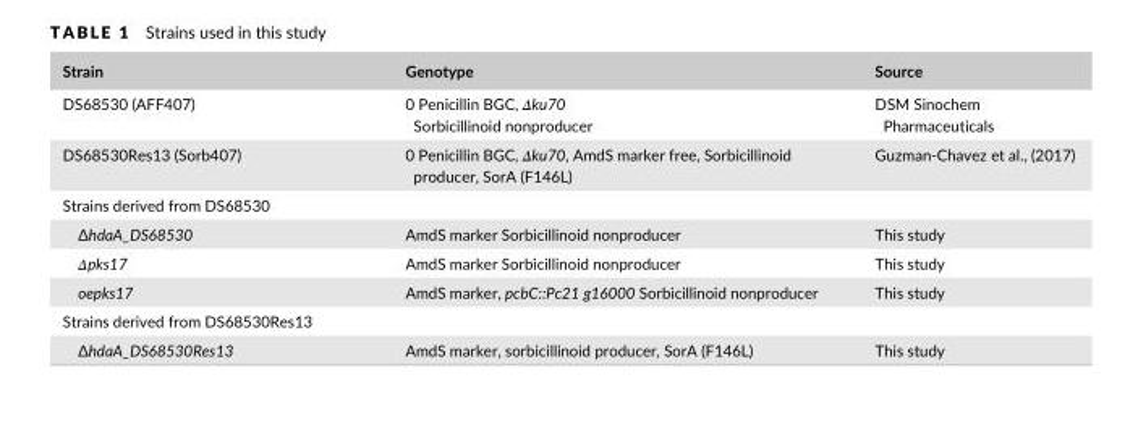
<table><thead><tr><td>Strain</td><td>Genotype</td><td>Source</td></tr></thead><tbody><tr><td>DS68530 (AFF407)</td><td>0 Penicillin BGC, Δku70 Sorbicillinoid nonproducer</td><td>DSM Sinochem Pharmaceuticals</td></tr><tr><td>DS68530Res13 (Sorb407)</td><td>0 Penicillin BGC, Δku70, AmdS marker free, Sorbicillinoid producer, SorA (F146L)</td><td>Guzman- Chavez et al., (2017)</td></tr><tr><td colspan="3">Strains derived from DS68530</td></tr><tr><td>∆hdaA_DS68530</td><td>AmdS marker Sorbicillinoid nonproducer</td><td>This study</td></tr><tr><td>Δpks17</td><td>AmdS marker Sorbicillinoid nonproducer</td><td>This study</td></tr><tr><td>oepks17</td><td>AmdS marker, pcbC::Pc21 g16000 Sorbicillinoid nonproducer</td><td>This study</td></tr><tr><td colspan="3">Strains derived from DS68530Res13</td></tr><tr><td>∆hdaA_DS68530Res13</td><td>AmdS marker, sorbicillinoid producer, SorA (F146L)</td><td>This study</td></tr></tbody></table>